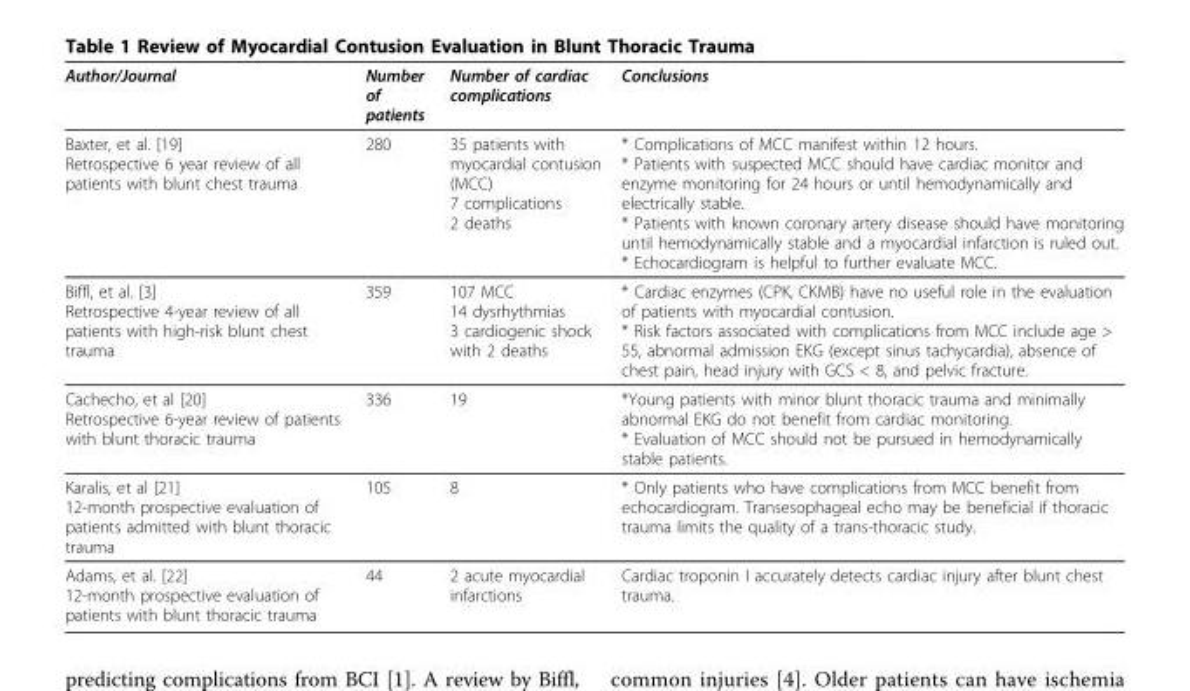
<table><thead><tr><td>Author/Journal</td><td>Number of patients</td><td>Number of cardiac complications</td><td>Conclusions</td></tr></thead><tbody><tr><td>Baxter, et al. [19] Retrospective 6 year review of all patients with blunt chest trauma</td><td>280</td><td>35 patients with myocardial contusion (MCC) 7 complications 2 deaths</td><td>* Complications of MCC manifest within 12 hours. * Patients with suspected MCC should have cardiac monitor and enzyme monitoring for 24 hours or until hemodynamically and electrically stable. * Patients with known coronary artery disease should have monitoring until hemodynamically stable and a myocardial infarction is ruled out. * Echocardiogram is helpful to further evaluate MCC.</td></tr><tr><td>Biffl, et al. [3] Retrospective 4-year review of all patients with high-risk blunt chest trauma</td><td>359</td><td>107 MCC 14 dysrhythmias 3 cardiogenic shock with 2 deaths</td><td>* Cardiac enzymes (CPK, CKMB) have no useful role in the evaluation of patients with myocardial contusion. * Risk factors associated with complications from MCC include age &gt; 55, abnormal admission EKG (except sinus tachycardia), absence of chest pain, head injury with GCS &lt; 8, and pelvic fracture.</td></tr><tr><td>Cachecho, et al [20] Retrospective 6-year review of patients with blunt thoracic trauma</td><td>336</td><td>19</td><td>*Young patients with minor blunt thoracic trauma and minimally abnormal EKG do not benefit from cardiac monitoring. * Evaluation of MCC should not be pursued in hemodynamically stable patients.</td></tr><tr><td>Karalis, et al [21] 12-month prospective evaluation of patients admitted with blunt thoracic trauma</td><td>105</td><td>8</td><td>* Only patients who have complications from MCC benefit from echocardiogram. Transesophageal echo may be beneficial if thoracic trauma limits the quality of a trans-thoracic study.</td></tr><tr><td>Adams, et al. [22] 12-month prospective evaluation of patients with blunt thoracic trauma</td><td>44</td><td>2 acute myocardial infarctions</td><td>Cardiac troponin I accurately detects cardiac injury after blunt chest trauma.</td></tr></tbody></table>